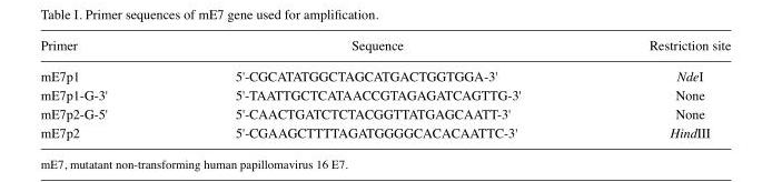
<table><thead><tr><td>Primer</td><td>Sequence</td><td>Restriction site</td></tr></thead><tbody><tr><td>mE7p1</td><td>5&#x27;-CGCATATGGCTAGCATGACTGGTGGA-3&#x27;</td><td>NdeI</td></tr><tr><td>mE7p1-G-3&#x27;</td><td>5&#x27;-TAATTGCTCATAACCGTAGAGATCAGTTG-3&#x27;</td><td>None</td></tr><tr><td>mE7p2-G-5&#x27;</td><td>5&#x27;-CAACTGATCTCTACGGTTATGAGCAATT-3&#x27;</td><td>None</td></tr><tr><td>mE7p2</td><td>5&#x27;-CGAAGCTTTTAGATGGGGCACACAATTC-3&#x27;</td><td>HindIII</td></tr></tbody></table>